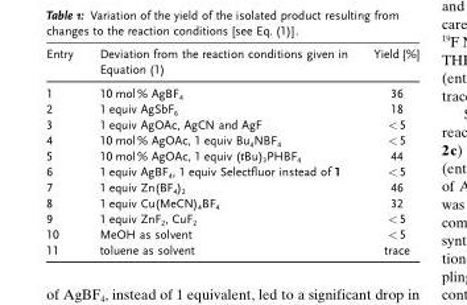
<table><thead><tr><td>Entry</td><td>Deviation from the reaction conditions given in Equation (1)</td><td>Yield [%]</td></tr></thead><tbody><tr><td>1</td><td>10 mol% AgBF<sub>4</sub></td><td>36</td></tr><tr><td>2</td><td>1 equiv AgSbF<sub>6</sub></td><td>18</td></tr><tr><td>3</td><td>1 equiv AgOAc, AgCN and AgF</td><td>&lt;5</td></tr><tr><td>4</td><td>10 mol% AgOAc, 1 equiv Bu<sub>4</sub>NBF<sub>4</sub></td><td>&lt;5</td></tr><tr><td>5</td><td>10 mol% AgOAc, 1 equiv (tBu)<sub>3</sub>PHBF<sub>4</sub></td><td>44</td></tr><tr><td>6</td><td>1 equiv AgBF<sub>4</sub>, 1 equiv Selectfluor instead of 1</td><td>&lt;5</td></tr><tr><td>7</td><td>1 equiv Zn(BF<sub>4</sub>)<sub>2</sub></td><td>46</td></tr><tr><td>8</td><td>1 equiv Cu(MeCN)<sub>4</sub>BF<sub>4</sub></td><td>32</td></tr><tr><td>9</td><td>1 equiv ZnF<sub>2</sub>, CuF<sub>2</sub></td><td>&lt;5</td></tr><tr><td>10</td><td>MeOH as solvent</td><td>&lt;5</td></tr><tr><td>11</td><td>toluene as solvent</td><td>trace</td></tr></tbody></table>